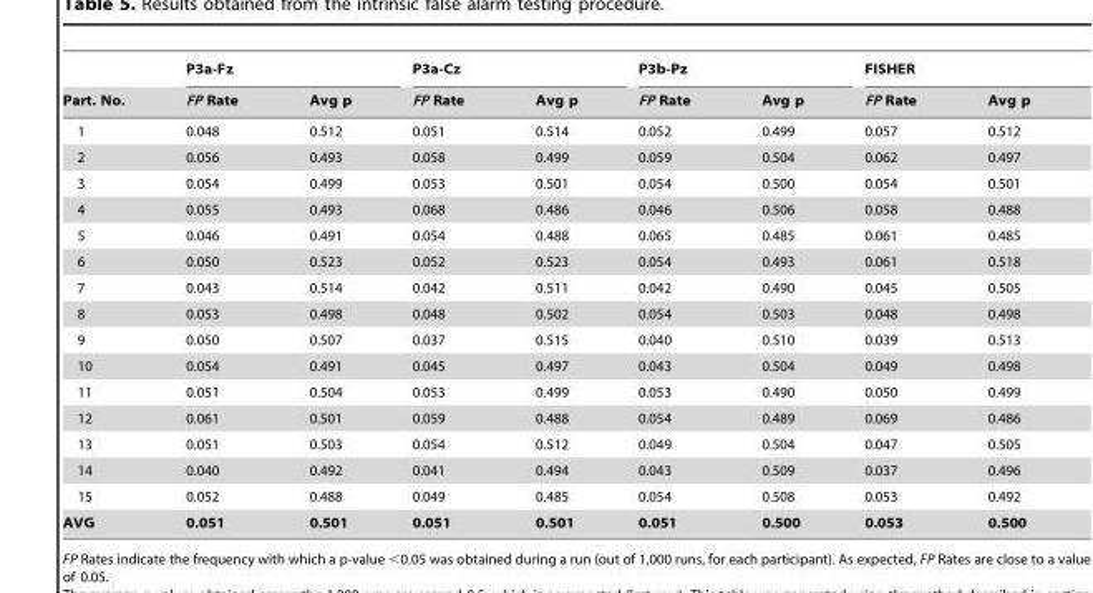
<table><thead><tr><td rowspan="2">Part. No.</td><td colspan="2">P3a-Fz</td><td colspan="2">P3a-Cz</td><td colspan="2">P3b-Pz</td><td colspan="2">FISHER</td></tr><tr><td>FP Rate</td><td>Avg p</td><td>FP Rate</td><td>Avg p</td><td>FP Rate</td><td>Avg p</td><td>FP Rate</td><td>Avg p</td></tr></thead><tbody><tr><td>1</td><td>0.048</td><td>0.512</td><td>0.051</td><td>0.514</td><td>0.052</td><td>0.499</td><td>0.057</td><td>0.512</td></tr><tr><td>2</td><td>0.056</td><td>0.493</td><td>0.058</td><td>0.499</td><td>0.059</td><td>0.504</td><td>0.062</td><td>0.497</td></tr><tr><td>3</td><td>0.054</td><td>0.499</td><td>0.053</td><td>0.501</td><td>0.054</td><td>0.500</td><td>0.054</td><td>0.501</td></tr><tr><td>4</td><td>0.055</td><td>0.493</td><td>0.068</td><td>0.486</td><td>0.046</td><td>0.506</td><td>0.058</td><td>0.488</td></tr><tr><td>5</td><td>0.046</td><td>0.491</td><td>0.054</td><td>0.488</td><td>0.065</td><td>0.485</td><td>0.061</td><td>0.485</td></tr><tr><td>6</td><td>0.050</td><td>0.523</td><td>0.052</td><td>0.523</td><td>0.054</td><td>0.493</td><td>0.061</td><td>0.518</td></tr><tr><td>7</td><td>0.043</td><td>0.514</td><td>0.042</td><td>0.511</td><td>0.042</td><td>0.490</td><td>0.045</td><td>0.505</td></tr><tr><td>8</td><td>0.053</td><td>0.498</td><td>0.048</td><td>0.502</td><td>0.054</td><td>0.503</td><td>0.048</td><td>0.498</td></tr><tr><td>9</td><td>0.050</td><td>0.507</td><td>0.037</td><td>0.515</td><td>0.040</td><td>0.510</td><td>0.039</td><td>0.513</td></tr><tr><td>10</td><td>0.054</td><td>0.491</td><td>0.045</td><td>0.497</td><td>0.043</td><td>0.504</td><td>0.049</td><td>0.498</td></tr><tr><td>11</td><td>0.051</td><td>0.504</td><td>0.053</td><td>0.499</td><td>0.053</td><td>0.490</td><td>0.050</td><td>0.499</td></tr><tr><td>12</td><td>0.061</td><td>0.501</td><td>0.059</td><td>0.488</td><td>0.054</td><td>0.489</td><td>0.069</td><td>0.486</td></tr><tr><td>13</td><td>0.051</td><td>0.503</td><td>0.054</td><td>0.512</td><td>0.049</td><td>0.504</td><td>0.047</td><td>0.505</td></tr><tr><td>14</td><td>0.040</td><td>0.492</td><td>0.041</td><td>0.494</td><td>0.043</td><td>0.509</td><td>0.037</td><td>0.496</td></tr><tr><td>15</td><td>0.052</td><td>0.488</td><td>0.049</td><td>0.485</td><td>0.054</td><td>0.508</td><td>0.053</td><td>0.492</td></tr><tr><td>AVG</td><td>0.051</td><td>0.501</td><td>0.051</td><td>0.501</td><td>0.051</td><td>0.500</td><td>0.053</td><td>0.500</td></tr></tbody></table>